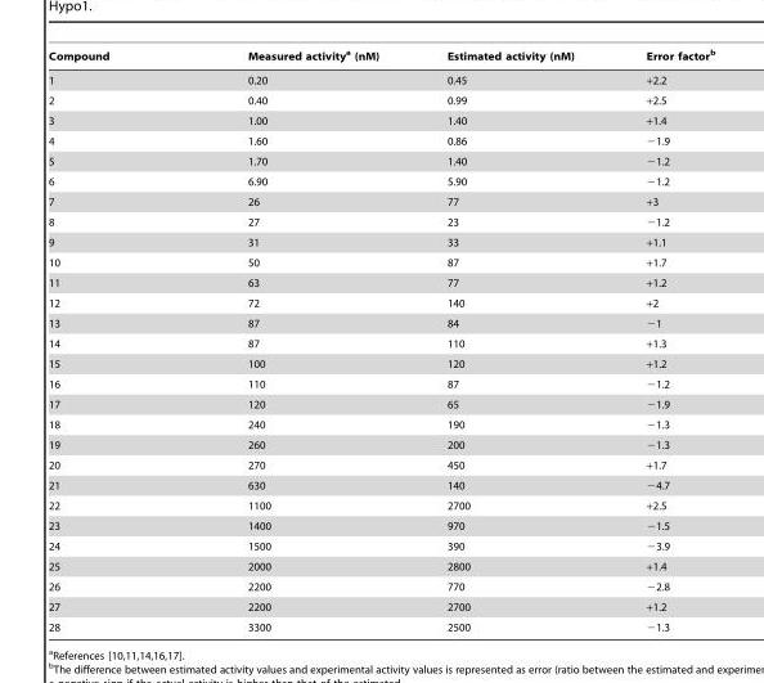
<table><thead><tr><td>Compound</td><td>Measured activity<sup>a</sup> (nM)</td><td>Estimated activity (nM)</td><td>Error factor<sup>b</sup></td></tr></thead><tbody><tr><td>1</td><td>0.20</td><td>0.45</td><td>+2.2</td></tr><tr><td>2</td><td>0.40</td><td>0.99</td><td>+2.5</td></tr><tr><td>3</td><td>1.00</td><td>1.40</td><td>+1.4</td></tr><tr><td>4</td><td>1.60</td><td>0.86</td><td>−1.9</td></tr><tr><td>5</td><td>1.70</td><td>1.40</td><td>−1.2</td></tr><tr><td>6</td><td>6.90</td><td>5.90</td><td>−1.2</td></tr><tr><td>7</td><td>26</td><td>77</td><td>+3</td></tr><tr><td>8</td><td>27</td><td>23</td><td>−1.2</td></tr><tr><td>9</td><td>31</td><td>33</td><td>+1.1</td></tr><tr><td>10</td><td>50</td><td>87</td><td>+1.7</td></tr><tr><td>11</td><td>63</td><td>77</td><td>+1.2</td></tr><tr><td>12</td><td>72</td><td>140</td><td>+2</td></tr><tr><td>13</td><td>87</td><td>84</td><td>−1</td></tr><tr><td>14</td><td>87</td><td>110</td><td>+1.3</td></tr><tr><td>15</td><td>100</td><td>120</td><td>+1.2</td></tr><tr><td>16</td><td>110</td><td>87</td><td>−1.2</td></tr><tr><td>17</td><td>120</td><td>65</td><td>−1.9</td></tr><tr><td>18</td><td>240</td><td>190</td><td>−1.3</td></tr><tr><td>19</td><td>260</td><td>200</td><td>−1.3</td></tr><tr><td>20</td><td>270</td><td>450</td><td>+1.7</td></tr><tr><td>21</td><td>630</td><td>140</td><td>−4.7</td></tr><tr><td>22</td><td>1100</td><td>2700</td><td>+2.5</td></tr><tr><td>23</td><td>1400</td><td>970</td><td>−1.5</td></tr><tr><td>24</td><td>1500</td><td>390</td><td>−3.9</td></tr><tr><td>25</td><td>2000</td><td>2800</td><td>+1.4</td></tr><tr><td>26</td><td>2200</td><td>770</td><td>−2.8</td></tr><tr><td>27</td><td>2200</td><td>2700</td><td>+1.2</td></tr><tr><td>28</td><td>3300</td><td>2500</td><td>−1.3</td></tr></tbody></table>